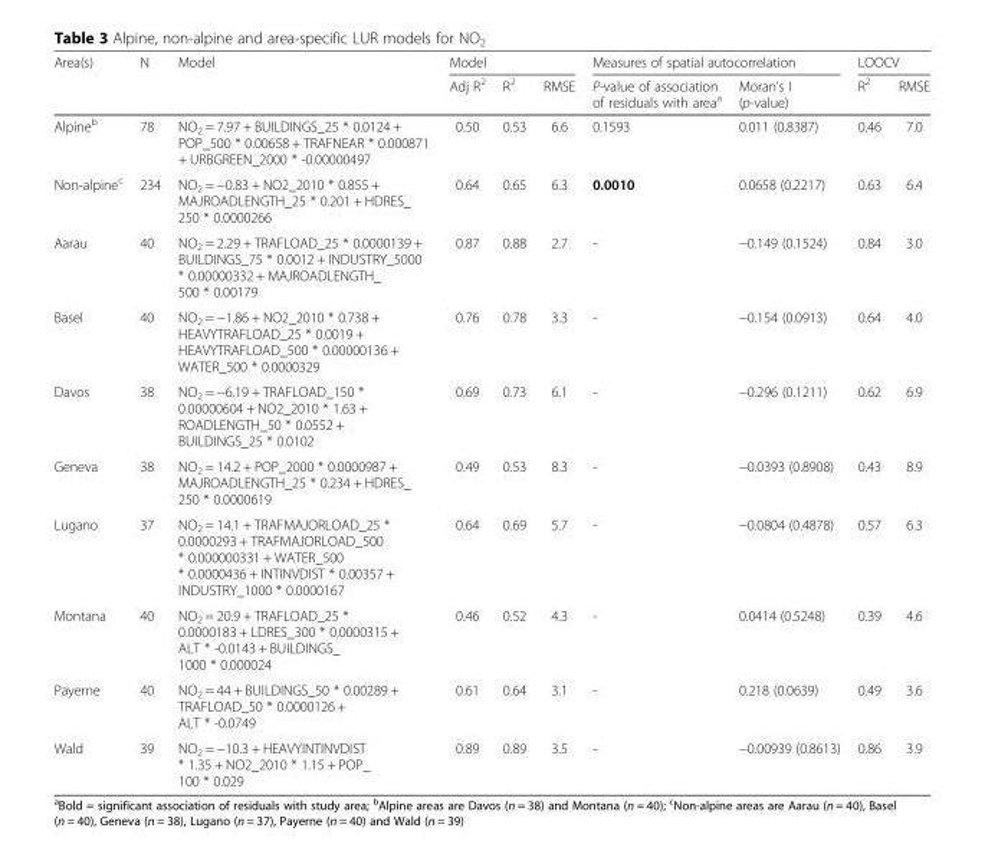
<table><thead><tr><td rowspan="2">Area(s)</td><td rowspan="2">N</td><td rowspan="2">Model</td><td colspan="3">Model</td><td colspan="2">Measures of spatial autocorrelation</td><td colspan="2">LOOCV</td></tr><tr><td>Adj R<sup>2</sup></td><td>R<sup>2</sup></td><td>RMSE</td><td>P-value of association of residuals with area<sup>a</sup></td><td>Moran’s I (p-value)</td><td>R<sup>2</sup></td><td>RMSE</td></tr></thead><tbody><tr><td>Alpine<sup>b</sup></td><td>78</td><td>NO<sub>2</sub> = 7.97 + BUILDINGS_25 * 0.0124 + POP_500 * 0.00658 + TRAFNEAR * 0.000871 + URBGREEN_2000 * -0.00000497</td><td>0.50</td><td>0.53</td><td>6.6</td><td>0.1593</td><td>0.011 (0.8387)</td><td>0.46</td><td>7.0</td></tr><tr><td>Non-alpine<sup>c</sup></td><td>234</td><td>NO<sub>2</sub> = −0.83 + NO2_2010 * 0.855 + MAJROADLENGTH_25 * 0.201 + HDRES_ 250 * 0.0000266</td><td>0.64</td><td>0.65</td><td>6.3</td><td>0.0010</td><td>0.0658 (0.2217)</td><td>0.63</td><td>6.4</td></tr><tr><td>Aarau</td><td>40</td><td>NO<sub>2</sub> = 2.29 + TRAFLOAD_25 * 0.0000139 + BUILDINGS_75 * 0.0012 + INDUSTRY_5000 * 0.00000332 + MAJROADLENGTH_ 500 * 0.00179</td><td>0.87</td><td>0.88</td><td>2.7</td><td>-</td><td>−0.149 (0.1524)</td><td>0.84</td><td>3.0</td></tr><tr><td>Basel</td><td>40</td><td>NO<sub>2</sub> = −1.86 + NO2_2010 * 0.738 + HEAVYTRAFLOAD_25 * 0.0019 + HEAVYTRAFLOAD_500 * 0.00000136 + WATER_500 * 0.0000329</td><td>0.76</td><td>0.78</td><td>3.3</td><td>-</td><td>−0.154 (0.0913)</td><td>0.64</td><td>4.0</td></tr><tr><td>Davos</td><td>38</td><td>NO<sub>2</sub> = −6.19 + TRAFLOAD_150 * 0.00000604 + NO2_2010 * 1.63 + ROADLENGTH_50 * 0.0552 + BUILDINGS_25 * 0.0102</td><td>0.69</td><td>0.73</td><td>6.1</td><td>-</td><td>−0.296 (0.1211)</td><td>0.62</td><td>6.9</td></tr><tr><td>Geneva</td><td>38</td><td>NO<sub>2</sub> = 14.2 + POP_2000 * 0.0000987 + MAJROADLENGTH_25 * 0.234 + HDRES_ 250 * 0.0000619</td><td>0.49</td><td>0.53</td><td>8.3</td><td>-</td><td>−0.0393 (0.8908)</td><td>0.43</td><td>8.9</td></tr><tr><td>Lugano</td><td>37</td><td>NO<sub>2</sub> = 14.1 + TRAFMAJORLOAD_25 * 0.0000293 + TRAFMAJORLOAD_500 * 0.000000331 + WATER_500 * 0.0000436 + INTINVDIST * 0.00357 + INDUSTRY_1000 * 0.0000167</td><td>0.64</td><td>0.69</td><td>5.7</td><td>-</td><td>−0.0804 (0.4878)</td><td>0.57</td><td>6.3</td></tr><tr><td>Montana</td><td>40</td><td>NO<sub>2</sub> = 20.9 + TRAFLOAD_25 * 0.0000183 + LDRES_300 * 0.0000315 + ALT * -0.0143 + BUILDINGS_ 1000 * 0.000024</td><td>0.46</td><td>0.52</td><td>4.3</td><td>-</td><td>0.0414 (0.5248)</td><td>0.39</td><td>4.6</td></tr><tr><td>Payerne</td><td>40</td><td>NO<sub>2</sub> = 44 + BUILDINGS_50 * 0.00289 + TRAFLOAD_50 * 0.0000126 + ALT * -0.0749</td><td>0.61</td><td>0.64</td><td>3.1</td><td>-</td><td>0.218 (0.0639)</td><td>0.49</td><td>3.6</td></tr><tr><td>Wald</td><td>39</td><td>NO<sub>2</sub> = −10.3 + HEAVYINTINVDIST * 1.35 + NO2_2010 * 1.15 + POP_ 100 * 0.029</td><td>0.89</td><td>0.89</td><td>3.5</td><td>-</td><td>−0.00939 (0.8613)</td><td>0.86</td><td>3.9</td></tr></tbody></table>